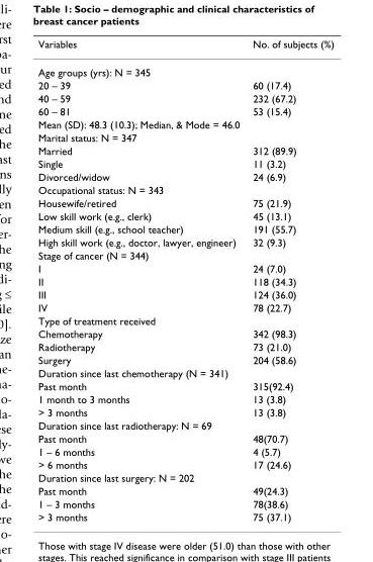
<table><thead><tr><td>Variables</td><td>No. of subjects (%)</td></tr></thead><tbody><tr><td colspan="2">Age groups (yrs): N = 345</td></tr><tr><td>20 – 39</td><td>60 (17.4)</td></tr><tr><td>40 – 59</td><td>232 (67.2)</td></tr><tr><td>60 – 81</td><td>53 (15.4)</td></tr><tr><td colspan="2">Mean (SD): 48.3 (10.3); Median, &amp; Mode = 46.0</td></tr><tr><td colspan="2">Marital status: N = 347</td></tr><tr><td>Married</td><td>312 (89.9)</td></tr><tr><td>Single</td><td>11 (3.2)</td></tr><tr><td>Divorced/widow</td><td>24 (6.9)</td></tr><tr><td colspan="2">Occupational status: N = 343</td></tr><tr><td>Housewife/retired</td><td>75 (21.9)</td></tr><tr><td>Low skill work (e.g., clerk)</td><td>45 (13.1)</td></tr><tr><td>Medium skill (e.g., school teacher)</td><td>191 (55.7)</td></tr><tr><td>High skill work (e.g., doctor, lawyer, engineer)</td><td>32 (9.3)</td></tr><tr><td colspan="2">Stage of cancer (N = 344)</td></tr><tr><td>I</td><td>24 (7.0)</td></tr><tr><td>II</td><td>118 (34.3)</td></tr><tr><td>III</td><td>124 (36.0)</td></tr><tr><td>IV</td><td>78 (22.7)</td></tr><tr><td colspan="2">Type of treatment received</td></tr><tr><td>Chemotherapy</td><td>342 (98.3)</td></tr><tr><td>Radiotherapy</td><td>73 (21.0)</td></tr><tr><td>Surgery</td><td>204 (58.6)</td></tr><tr><td colspan="2">Duration since last chemotherapy (N = 341)</td></tr><tr><td>Past month</td><td>315(92.4)</td></tr><tr><td>1 month to 3 months</td><td>13 (3.8)</td></tr><tr><td>&gt; 3 months</td><td>13 (3.8)</td></tr><tr><td colspan="2">Duration since last radiotherapy: N = 69</td></tr><tr><td>Past month</td><td>48(70.7)</td></tr><tr><td>1 – 6 months</td><td>4 (5.7)</td></tr><tr><td>&gt; 6 months</td><td>17 (24.6)</td></tr><tr><td colspan="2">Duration since last surgery: N = 202</td></tr><tr><td>Past month</td><td>49(24.3)</td></tr><tr><td>1 – 3 months</td><td>78(38.6)</td></tr><tr><td>&gt; 3 months</td><td>75 (37.1)</td></tr></tbody></table>